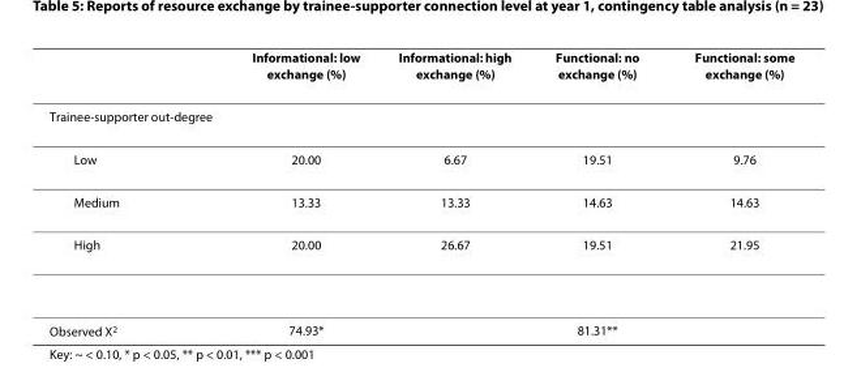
<table><thead><tr><td></td><td>Informational: low exchange (%)</td><td>Informational: high exchange (%)</td><td>Functional: no exchange (%)</td><td>Functional: some exchange (%)</td></tr></thead><tbody><tr><td colspan="5">Trainee-supporter out-degree</td></tr><tr><td>Low</td><td>20.00</td><td>6.67</td><td>19.51</td><td>9.76</td></tr><tr><td>Medium</td><td>13.33</td><td>13.33</td><td>14.63</td><td>14.63</td></tr><tr><td>High</td><td>20.00</td><td>26.67</td><td>19.51</td><td>21.95</td></tr><tr><td>Observed X2</td><td>74.93*</td><td></td><td>81.31**</td><td></td></tr></tbody></table>